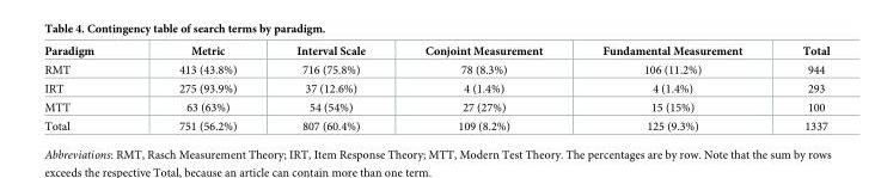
<table><thead><tr><td>Paradigm</td><td>Metric</td><td>Interval Scale</td><td>Conjoint Measurement</td><td>Fundamental Measurement</td><td>Total</td></tr></thead><tbody><tr><td>RMT</td><td>413 (43.8%)</td><td>716 (75.8%)</td><td>78 (8.3%)</td><td>106 (11.2%)</td><td>944</td></tr><tr><td>IRT</td><td>275 (93.9%)</td><td>37 (12.6%)</td><td>4 (1.4%)</td><td>4 (1.4%)</td><td>293</td></tr><tr><td>MTT</td><td>63 (63%)</td><td>54 (54%)</td><td>27 (27%)</td><td>15 (15%)</td><td>100</td></tr><tr><td>Total</td><td>751 (56.2%)</td><td>807 (60.4%)</td><td>109 (8.2%)</td><td>125 (9.3%)</td><td>1337</td></tr></tbody></table>